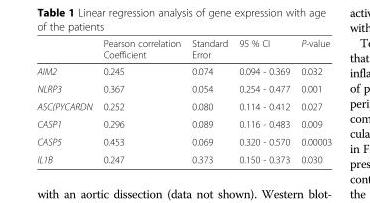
<table><thead><tr><td></td><td>Pearson correlation Coefficient</td><td>Standard Error</td><td>95 % CI</td><td>P-value</td></tr></thead><tbody><tr><td>AIM2</td><td>0.245</td><td>0.074</td><td>0.094 - 0.369</td><td>0.032</td></tr><tr><td>NLRP3</td><td>0.367</td><td>0.054</td><td>0.254 - 0.477</td><td>0.001</td></tr><tr><td>ASC(PYCARDN</td><td>0.252</td><td>0.080</td><td>0.114 - 0.412</td><td>0.027</td></tr><tr><td>CASP1</td><td>0.296</td><td>0.089</td><td>0.116 - 0.483</td><td>0.009</td></tr><tr><td>CASP5</td><td>0.453</td><td>0.069</td><td>0.320 - 0.570</td><td>0.00003</td></tr><tr><td>IL1B</td><td>0.247</td><td>0.373</td><td>0.150 - 0.373</td><td>0.030</td></tr></tbody></table>